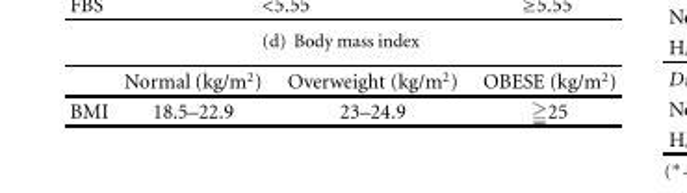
<table><thead><tr><td></td><td>Normal (kg/m<sup>2</sup>)</td><td>Overweight (kg/m<sup>2</sup>)</td><td>OBESE (kg/m<sup>2</sup>)</td></tr></thead><tbody><tr><td>BMI</td><td>18.5–22.9</td><td>23–24.9</td><td>≧25</td></tr></tbody></table>